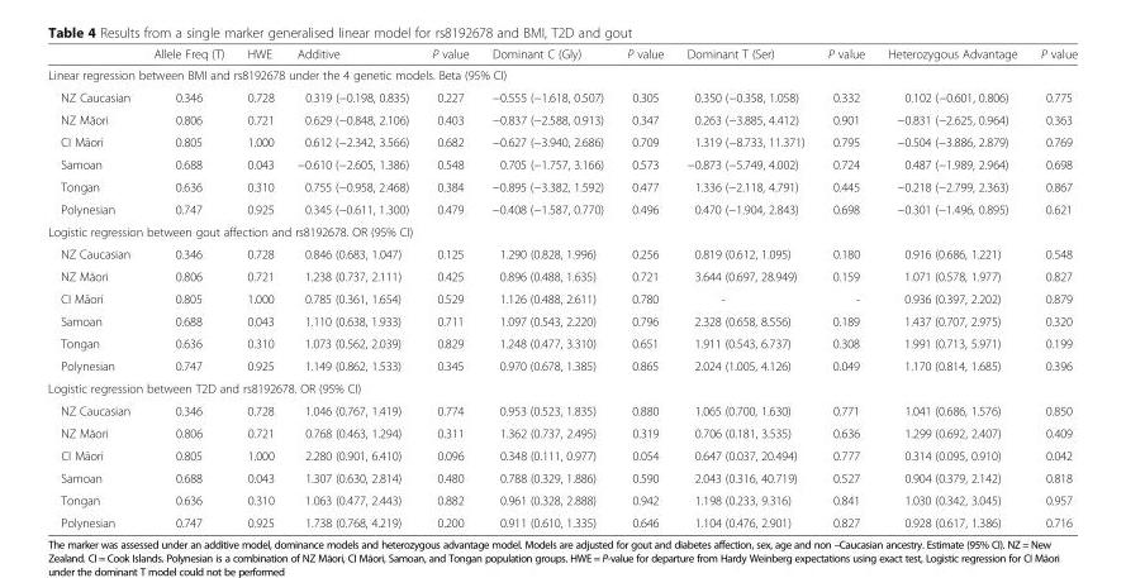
<table><thead><tr><td></td><td>Allele Freq (T)</td><td>HWE</td><td>Additive</td><td>P value</td><td>Dominant C (Gly)</td><td>P value</td><td>Dominant T (Ser)</td><td>P value</td><td>Heterozygous Advantage</td><td>P value</td></tr></thead><tbody><tr><td colspan="11">Linear regression between BMI and rs8192678 under the 4 genetic models. Beta (95% CI)</td></tr><tr><td>NZ Caucasian</td><td>0.346</td><td>0.728</td><td>0.319 (−0.198, 0.835)</td><td>0.227</td><td>−0.555 (−1.618, 0.507)</td><td>0.305</td><td>0.350 (−0.358, 1.058)</td><td>0.332</td><td>0.102 (−0.601, 0.806)</td><td>0.775</td></tr><tr><td>NZ Māori</td><td>0.806</td><td>0.721</td><td>0.629 (−0.848, 2.106)</td><td>0.403</td><td>−0.837 (−2.588, 0.913)</td><td>0.347</td><td>0.263 (−3.885, 4.412)</td><td>0.901</td><td>−0.831 (−2.625, 0.964)</td><td>0.363</td></tr><tr><td>CI Māori</td><td>0.805</td><td>1.000</td><td>0.612 (−2.342, 3.566)</td><td>0.682</td><td>−0.627 (−3.940, 2.686)</td><td>0.709</td><td>1.319 (−8.733, 11.371)</td><td>0.795</td><td>−0.504 (−3.886, 2.879)</td><td>0.769</td></tr><tr><td>Samoan</td><td>0.688</td><td>0.043</td><td>−0.610 (−2.605, 1.386)</td><td>0.548</td><td>0.705 (−1.757, 3.166)</td><td>0.573</td><td>−0.873 (−5.749, 4.002)</td><td>0.724</td><td>0.487 (−1.989, 2.964)</td><td>0.698</td></tr><tr><td>Tongan</td><td>0.636</td><td>0.310</td><td>0.755 (−0.958, 2.468)</td><td>0.384</td><td>−0.895 (−3.382, 1.592)</td><td>0.477</td><td>1.336 (−2.118, 4.791)</td><td>0.445</td><td>−0.218 (−2.799, 2.363)</td><td>0.867</td></tr><tr><td>Polynesian</td><td>0.747</td><td>0.925</td><td>0.345 (−0.611, 1.300)</td><td>0.479</td><td>−0.408 (−1.587, 0.770)</td><td>0.496</td><td>0.470 (−1.904, 2.843)</td><td>0.698</td><td>−0.301 (−1.496, 0.895)</td><td>0.621</td></tr><tr><td colspan="11">Logistic regression between gout affection and rs8192678. OR (95% CI)</td></tr><tr><td>NZ Caucasian</td><td>0.346</td><td>0.728</td><td>0.846 (0.683, 1.047)</td><td>0.125</td><td>1.290 (0.828, 1.996)</td><td>0.256</td><td>0.819 (0.612, 1.095)</td><td>0.180</td><td>0.916 (0.686, 1.221)</td><td>0.548</td></tr><tr><td>NZ Māori</td><td>0.806</td><td>0.721</td><td>1.238 (0.737, 2.111)</td><td>0.425</td><td>0.896 (0.488, 1.635)</td><td>0.721</td><td>3.644 (0.697, 28.949)</td><td>0.159</td><td>1.071 (0.578, 1.977)</td><td>0.827</td></tr><tr><td>CI Māori</td><td>0.805</td><td>1.000</td><td>0.785 (0.361, 1.654)</td><td>0.529</td><td>1.126 (0.488, 2.611)</td><td>0.780</td><td>-</td><td>-</td><td>0.936 (0.397, 2.202)</td><td>0.879</td></tr><tr><td>Samoan</td><td>0.688</td><td>0.043</td><td>1.110 (0.638, 1.933)</td><td>0.711</td><td>1.097 (0.543, 2.220)</td><td>0.796</td><td>2.328 (0.658, 8.556)</td><td>0.189</td><td>1.437 (0.707, 2.975)</td><td>0.320</td></tr><tr><td>Tongan</td><td>0.636</td><td>0.310</td><td>1.073 (0.562, 2.039)</td><td>0.829</td><td>1.248 (0.477, 3.310)</td><td>0.651</td><td>1.911 (0.543, 6.737)</td><td>0.308</td><td>1.991 (0.713, 5.971)</td><td>0.199</td></tr><tr><td>Polynesian</td><td>0.747</td><td>0.925</td><td>1.149 (0.862, 1.533)</td><td>0.345</td><td>0.970 (0.678, 1.385)</td><td>0.865</td><td>2.024 (1.005, 4.126)</td><td>0.049</td><td>1.170 (0.814, 1.685)</td><td>0.396</td></tr><tr><td colspan="11">Logistic regression between T2D and rs8192678. OR (95% CI)</td></tr><tr><td>NZ Caucasian</td><td>0.346</td><td>0.728</td><td>1.046 (0.767, 1.419)</td><td>0.774</td><td>0.953 (0.523, 1.835)</td><td>0.880</td><td>1.065 (0.700, 1.630)</td><td>0.771</td><td>1.041 (0.686, 1.576)</td><td>0.850</td></tr><tr><td>NZ Māori</td><td>0.806</td><td>0.721</td><td>0.768 (0.463, 1.294)</td><td>0.311</td><td>1.362 (0.737, 2.495)</td><td>0.319</td><td>0.706 (0.181, 3.535)</td><td>0.636</td><td>1.299 (0.692, 2.407)</td><td>0.409</td></tr><tr><td>CI Māori</td><td>0.805</td><td>1.000</td><td>2.280 (0.901, 6.410)</td><td>0.096</td><td>0.348 (0.111, 0.977)</td><td>0.054</td><td>0.647 (0.037, 20.494)</td><td>0.777</td><td>0.314 (0.095, 0.910)</td><td>0.042</td></tr><tr><td>Samoan</td><td>0.688</td><td>0.043</td><td>1.307 (0.630, 2.814)</td><td>0.480</td><td>0.788 (0.329, 1.886)</td><td>0.590</td><td>2.043 (0.316, 40.719)</td><td>0.527</td><td>0.904 (0.379, 2.142)</td><td>0.818</td></tr><tr><td>Tongan</td><td>0.636</td><td>0.310</td><td>1.063 (0.477, 2.443)</td><td>0.882</td><td>0.961 (0.328, 2.888)</td><td>0.942</td><td>1.198 (0.233, 9.316)</td><td>0.841</td><td>1.030 (0.342, 3.045)</td><td>0.957</td></tr><tr><td>Polynesian</td><td>0.747</td><td>0.925</td><td>1.738 (0.768, 4.219)</td><td>0.200</td><td>0.911 (0.610, 1.335)</td><td>0.646</td><td>1.104 (0.476, 2.901)</td><td>0.827</td><td>0.928 (0.617, 1.386)</td><td>0.716</td></tr></tbody></table>